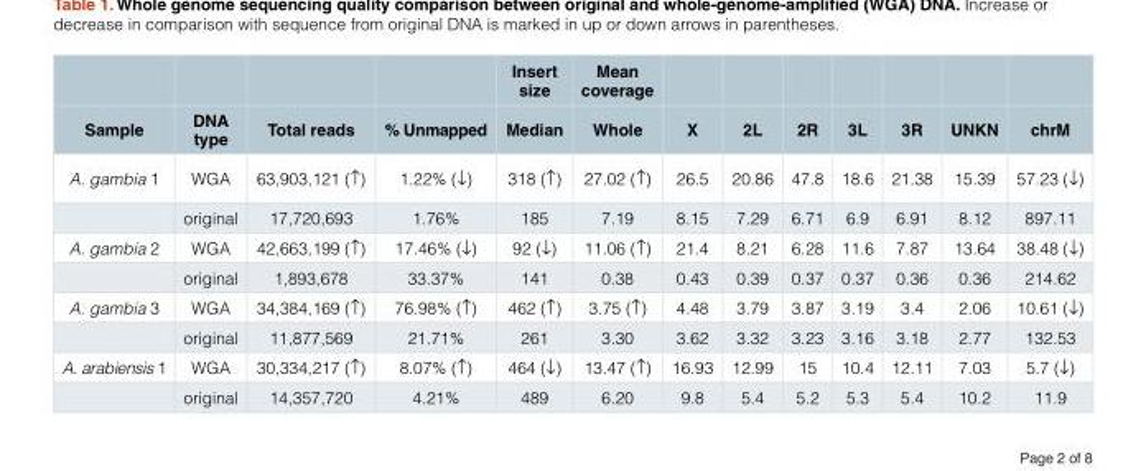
<table><thead><tr><td rowspan="2">Sample</td><td rowspan="2">DNA type</td><td rowspan="2">Total reads</td><td rowspan="2">% Unmapped</td><td rowspan="2">Insert size Median</td><td rowspan="2">Mean coverage Whole</td><td rowspan="2">X</td><td rowspan="2">2L</td><td rowspan="2">2R</td><td rowspan="2">3L</td><td rowspan="2">3R</td><td rowspan="2">UNKN</td><td rowspan="2">chrM</td></tr><tr></tr></thead><tbody><tr><td rowspan="2">A. gambia 1</td><td>WGA</td><td>63,903,121 (↑)</td><td>1.22% (↓)</td><td>318 (↑)</td><td>27.02 (↑)</td><td>26.5</td><td>20.86</td><td>47.8</td><td>18.6</td><td>21.38</td><td>15.39</td><td>57.23 (↓)</td></tr><tr><td>original</td><td>17,720,693</td><td>1.76%</td><td>185</td><td>7.19</td><td>8.15</td><td>7.29</td><td>6.71</td><td>6.9</td><td>6.91</td><td>8.12</td><td>897.11</td></tr><tr><td rowspan="2">A. gambia 2</td><td>WGA</td><td>42,663,199 (↑)</td><td>17.46% (↓)</td><td>92 (↓)</td><td>11.06 (↑)</td><td>21.4</td><td>8.21</td><td>6.28</td><td>11.6</td><td>7.87</td><td>13.64</td><td>38.48 (↓)</td></tr><tr><td>original</td><td>1,893,678</td><td>33.37%</td><td>141</td><td>0.38</td><td>0.43</td><td>0.39</td><td>0.37</td><td>0.37</td><td>0.36</td><td>0.36</td><td>214.62</td></tr><tr><td rowspan="2">A. gambia 3</td><td>WGA</td><td>34,384,169 (↑)</td><td>76.98% (↑)</td><td>462 (↑)</td><td>3.75 (↑)</td><td>4.48</td><td>3.79</td><td>3.87</td><td>3.19</td><td>3.4</td><td>2.06</td><td>10.61 (↓)</td></tr><tr><td>original</td><td>11,877,569</td><td>21.71%</td><td>261</td><td>3.30</td><td>3.62</td><td>3.32</td><td>3.23</td><td>3.16</td><td>3.18</td><td>2.77</td><td>132.53</td></tr><tr><td rowspan="2">A. arabiensis 1</td><td>WGA</td><td>30,334,217 (↑)</td><td>8.07% (↑)</td><td>464 (↓)</td><td>13.47 (↑)</td><td>16.93</td><td>12.99</td><td>15</td><td>10.4</td><td>12.11</td><td>7.03</td><td>5.7 (↓)</td></tr><tr><td>original</td><td>14,357,720</td><td>4.21%</td><td>489</td><td>6.20</td><td>9.8</td><td>5.4</td><td>5.2</td><td>5.3</td><td>5.4</td><td>10.2</td><td>11.9</td></tr></tbody></table>